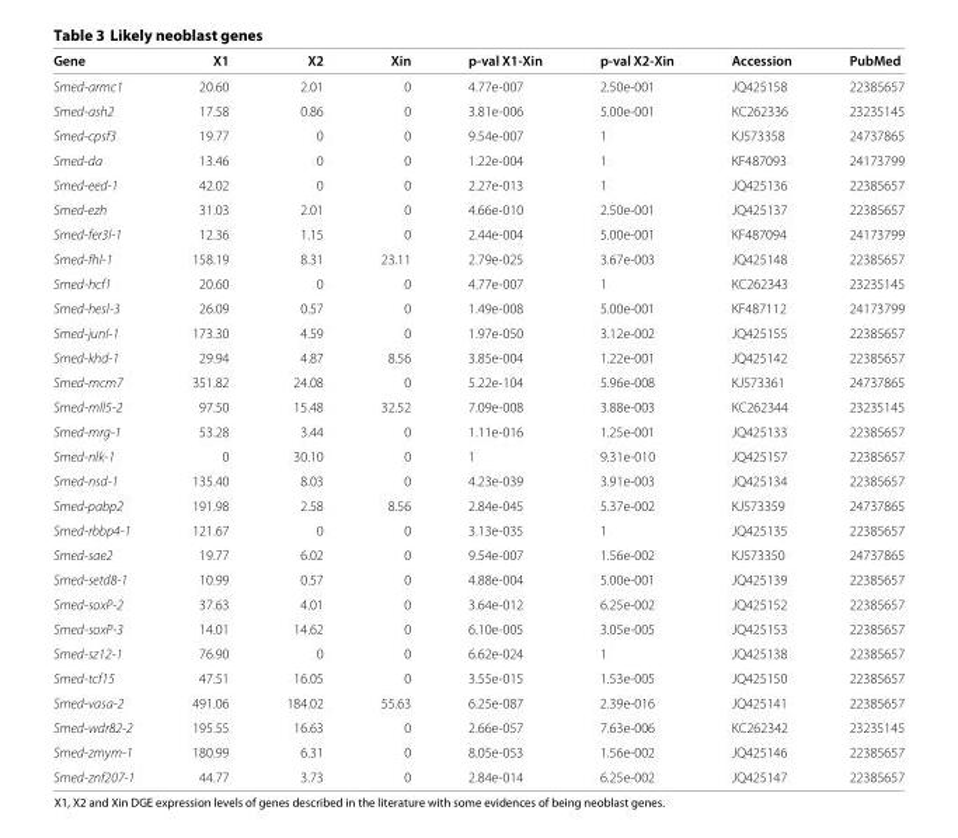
<table><thead><tr><td>Gene</td><td>X1</td><td>X2</td><td>Xin</td><td>p-val X1-Xin</td><td>p-val X2-Xin</td><td>Accession</td><td>PubMed</td></tr></thead><tbody><tr><td>Smed-armc1</td><td>20.60</td><td>2.01</td><td>0</td><td>4.77e-007</td><td>2.50e-001</td><td>JQ425158</td><td>22385657</td></tr><tr><td>Smed-ash2</td><td>17.58</td><td>0.86</td><td>0</td><td>3.81e-006</td><td>5.00e-001</td><td>KC262336</td><td>23235145</td></tr><tr><td>Smed-cpsf3</td><td>19.77</td><td>0</td><td>0</td><td>9.54e-007</td><td>1</td><td>KJ573358</td><td>24737865</td></tr><tr><td>Smed-da</td><td>13.46</td><td>0</td><td>0</td><td>1.22e-004</td><td>1</td><td>KF487093</td><td>24173799</td></tr><tr><td>Smed-eed-1</td><td>42.02</td><td>0</td><td>0</td><td>2.27e-013</td><td>1</td><td>JQ425136</td><td>22385657</td></tr><tr><td>Smed-ezh</td><td>31.03</td><td>2.01</td><td>0</td><td>4.66e-010</td><td>2.50e-001</td><td>JQ425137</td><td>22385657</td></tr><tr><td>Smed-fer3l-1</td><td>12.36</td><td>1.15</td><td>0</td><td>2.44e-004</td><td>5.00e-001</td><td>KF487094</td><td>24173799</td></tr><tr><td>Smed-fhl-1</td><td>158.19</td><td>8.31</td><td>23.11</td><td>2.79e-025</td><td>3.67e-003</td><td>JQ425148</td><td>22385657</td></tr><tr><td>Smed-hcf1</td><td>20.60</td><td>0</td><td>0</td><td>4.77e-007</td><td>1</td><td>KC262343</td><td>23235145</td></tr><tr><td>Smed-hesl-3</td><td>26.09</td><td>0.57</td><td>0</td><td>1.49e-008</td><td>5.00e-001</td><td>KF487112</td><td>24173799</td></tr><tr><td>Smed-junl-1</td><td>173.30</td><td>4.59</td><td>0</td><td>1.97e-050</td><td>3.12e-002</td><td>JQ425155</td><td>22385657</td></tr><tr><td>Smed-khd-1</td><td>29.94</td><td>4.87</td><td>8.56</td><td>3.85e-004</td><td>1.22e-001</td><td>JQ425142</td><td>22385657</td></tr><tr><td>Smed-mcm7</td><td>351.82</td><td>24.08</td><td>0</td><td>5.22e-104</td><td>5.96e-008</td><td>KJ573361</td><td>24737865</td></tr><tr><td>Smed-mll5-2</td><td>97.50</td><td>15.48</td><td>32.52</td><td>7.09e-008</td><td>3.88e-003</td><td>KC262344</td><td>23235145</td></tr><tr><td>Smed-mrg-1</td><td>53.28</td><td>3.44</td><td>0</td><td>1.11e-016</td><td>1.25e-001</td><td>JQ425133</td><td>22385657</td></tr><tr><td>Smed-nlk-1</td><td>0</td><td>30.10</td><td>0</td><td>1</td><td>9.31e-010</td><td>JQ425157</td><td>22385657</td></tr><tr><td>Smed-nsd-1</td><td>135.40</td><td>8.03</td><td>0</td><td>4.23e-039</td><td>3.91e-003</td><td>JQ425134</td><td>22385657</td></tr><tr><td>Smed-pabp2</td><td>191.98</td><td>2.58</td><td>8.56</td><td>2.84e-045</td><td>5.37e-002</td><td>KJ573359</td><td>24737865</td></tr><tr><td>Smed-rbbp4-1</td><td>121.67</td><td>0</td><td>0</td><td>3.13e-035</td><td>1</td><td>JQ425135</td><td>22385657</td></tr><tr><td>Smed-sae2</td><td>19.77</td><td>6.02</td><td>0</td><td>9.54e-007</td><td>1.56e-002</td><td>KJ573350</td><td>24737865</td></tr><tr><td>Smed-setd8-1</td><td>10.99</td><td>0.57</td><td>0</td><td>4.88e-004</td><td>5.00e-001</td><td>JQ425139</td><td>22385657</td></tr><tr><td>Smed-soxP-2</td><td>37.63</td><td>4.01</td><td>0</td><td>3.64e-012</td><td>6.25e-002</td><td>JQ425152</td><td>22385657</td></tr><tr><td>Smed-soxP-3</td><td>14.01</td><td>14.62</td><td>0</td><td>6.10e-005</td><td>3.05e-005</td><td>JQ425153</td><td>22385657</td></tr><tr><td>Smed-sz12-1</td><td>76.90</td><td>0</td><td>0</td><td>6.62e-024</td><td>1</td><td>JQ425138</td><td>22385657</td></tr><tr><td>Smed-tcf15</td><td>47.51</td><td>16.05</td><td>0</td><td>3.55e-015</td><td>1.53e-005</td><td>JQ425150</td><td>22385657</td></tr><tr><td>Smed-vasa-2</td><td>491.06</td><td>184.02</td><td>55.63</td><td>6.25e-087</td><td>2.39e-016</td><td>JQ425141</td><td>22385657</td></tr><tr><td>Smed-wdr82-2</td><td>195.55</td><td>16.63</td><td>0</td><td>2.66e-057</td><td>7.63e-006</td><td>KC262342</td><td>23235145</td></tr><tr><td>Smed-zmym-1</td><td>180.99</td><td>6.31</td><td>0</td><td>8.05e-053</td><td>1.56e-002</td><td>JQ425146</td><td>22385657</td></tr><tr><td>Smed-znf207-1</td><td>44.77</td><td>3.73</td><td>0</td><td>2.84e-014</td><td>6.25e-002</td><td>JQ425147</td><td>22385657</td></tr></tbody></table>